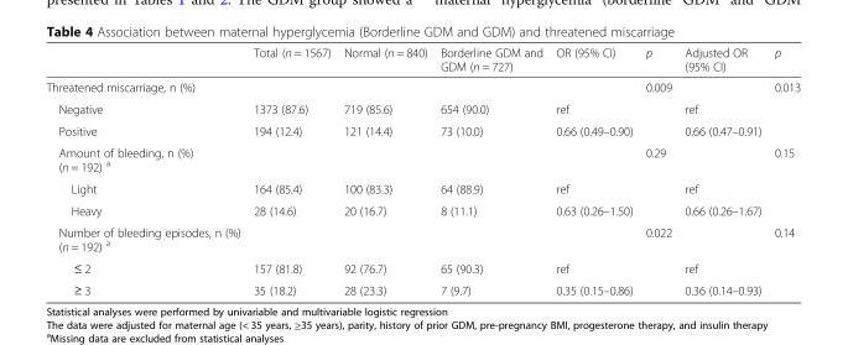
<table><thead><tr><td></td><td>Total (n = 1567)</td><td>Normal (n = 840)</td><td>Borderline GDM and GDM (n = 727)</td><td>OR (95% CI)</td><td>p</td><td>Adjusted OR (95% CI)</td><td>p</td></tr></thead><tbody><tr><td>Threatened miscarriage, n (%)</td><td></td><td></td><td></td><td></td><td>0.009</td><td></td><td>0.013</td></tr><tr><td>Negative</td><td>1373 (87.6)</td><td>719 (85.6)</td><td>654 (90.0)</td><td>ref</td><td></td><td>ref</td><td></td></tr><tr><td>Positive</td><td>194 (12.4)</td><td>121 (14.4)</td><td>73 (10.0)</td><td>0.66 (0.49–0.90)</td><td></td><td>0.66 (0.47–0.91)</td><td></td></tr><tr><td>Amount of bleeding, n (%) (n = 192) <sup>a</sup></td><td></td><td></td><td></td><td></td><td>0.29</td><td></td><td>0.15</td></tr><tr><td>Light</td><td>164 (85.4)</td><td>100 (83.3)</td><td>64 (88.9)</td><td>ref</td><td></td><td>ref</td><td></td></tr><tr><td>Heavy</td><td>28 (14.6)</td><td>20 (16.7)</td><td>8 (11.1)</td><td>0.63 (0.26–1.50)</td><td></td><td>0.66 (0.26–1.67)</td><td></td></tr><tr><td>Number of bleeding episodes, n (%) (n = 192) <sup>a</sup></td><td></td><td></td><td></td><td></td><td>0.022</td><td></td><td>0.14</td></tr><tr><td>≤ 2</td><td>157 (81.8)</td><td>92 (76.7)</td><td>65 (90.3)</td><td>ref</td><td></td><td>ref</td><td></td></tr><tr><td>≥ 3</td><td>35 (18.2)</td><td>28 (23.3)</td><td>7 (9.7)</td><td>0.35 (0.15–0.86)</td><td></td><td>0.36 (0.14–0.93)</td><td></td></tr></tbody></table>